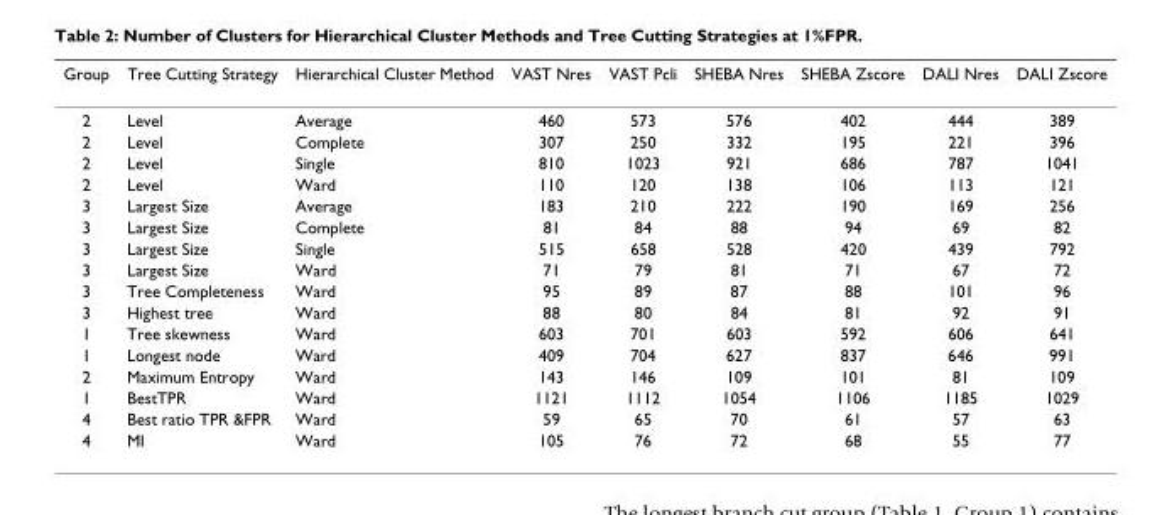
<table><thead><tr><td>Group</td><td>Tree Cutting Strategy</td><td>Hierarchical Cluster Method</td><td>VAST Nres</td><td>VAST Pcli</td><td>SHEBA Nres</td><td>SHEBA Zscore</td><td>DALI Nres</td><td>DALI Zscore</td></tr></thead><tbody><tr><td>2</td><td>Level</td><td>Average</td><td>460</td><td>573</td><td>576</td><td>402</td><td>444</td><td>389</td></tr><tr><td>2</td><td>Level</td><td>Complete</td><td>307</td><td>250</td><td>332</td><td>195</td><td>221</td><td>396</td></tr><tr><td>2</td><td>Level</td><td>Single</td><td>810</td><td>1023</td><td>921</td><td>686</td><td>787</td><td>1041</td></tr><tr><td>2</td><td>Level</td><td>Ward</td><td>110</td><td>120</td><td>138</td><td>106</td><td>113</td><td>121</td></tr><tr><td>3</td><td>Largest Size</td><td>Average</td><td>183</td><td>210</td><td>222</td><td>190</td><td>169</td><td>256</td></tr><tr><td>3</td><td>Largest Size</td><td>Complete</td><td>81</td><td>84</td><td>88</td><td>94</td><td>69</td><td>82</td></tr><tr><td>3</td><td>Largest Size</td><td>Single</td><td>515</td><td>658</td><td>528</td><td>420</td><td>439</td><td>792</td></tr><tr><td>3</td><td>Largest Size</td><td>Ward</td><td>71</td><td>79</td><td>81</td><td>71</td><td>67</td><td>72</td></tr><tr><td>3</td><td>Tree Completeness</td><td>Ward</td><td>95</td><td>89</td><td>87</td><td>88</td><td>101</td><td>96</td></tr><tr><td>3</td><td>Highest tree</td><td>Ward</td><td>88</td><td>80</td><td>84</td><td>81</td><td>92</td><td>91</td></tr><tr><td>1</td><td>Tree skewness</td><td>Ward</td><td>603</td><td>701</td><td>603</td><td>592</td><td>606</td><td>641</td></tr><tr><td>1</td><td>Longest node</td><td>Ward</td><td>409</td><td>704</td><td>627</td><td>837</td><td>646</td><td>991</td></tr><tr><td>2</td><td>Maximum Entropy</td><td>Ward</td><td>143</td><td>146</td><td>109</td><td>101</td><td>81</td><td>109</td></tr><tr><td>1</td><td>BestTPR</td><td>Ward</td><td>1121</td><td>1112</td><td>1054</td><td>1106</td><td>1185</td><td>1029</td></tr><tr><td>4</td><td>Best ratio TPR &amp;FPR</td><td>Ward</td><td>59</td><td>65</td><td>70</td><td>61</td><td>57</td><td>63</td></tr><tr><td>4</td><td>MI</td><td>Ward</td><td>105</td><td>76</td><td>72</td><td>68</td><td>55</td><td>77</td></tr></tbody></table>